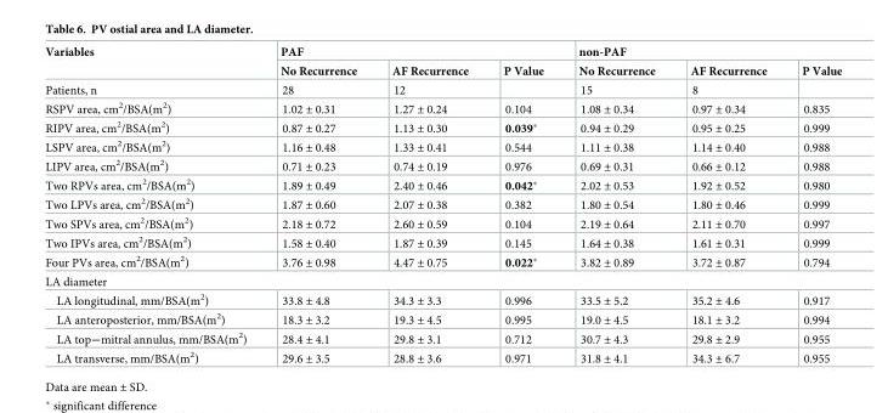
<table><thead><tr><td rowspan="2">Variables</td><td colspan="3">PAF</td><td colspan="3">non-PAF</td></tr><tr><td>No Recurrence</td><td>AF Recurrence</td><td>P Value</td><td>No Recurrence</td><td>AF Recurrence</td><td>P Value</td></tr></thead><tbody><tr><td>Patients, n</td><td>28</td><td>12</td><td></td><td>15</td><td>8</td><td></td></tr><tr><td>RSPV area, cm<sup>2</sup>/BSA(m<sup>2</sup>)</td><td>1.02 ± 0.31</td><td>1.27 ± 0.24</td><td>0.104</td><td>1.08 ± 0.34</td><td>0.97 ± 0.34</td><td>0.835</td></tr><tr><td>RIPV area, cm<sup>2</sup>/BSA(m<sup>2</sup>)</td><td>0.87 ± 0.27</td><td>1.13 ± 0.30</td><td>0.039*</td><td>0.94 ± 0.29</td><td>0.95 ± 0.25</td><td>0.999</td></tr><tr><td>LSPV area, cm<sup>2</sup>/BSA(m<sup>2</sup>)</td><td>1.16 ± 0.48</td><td>1.33 ± 0.41</td><td>0.544</td><td>1.11 ± 0.38</td><td>1.14 ± 0.40</td><td>0.988</td></tr><tr><td>LIPV area, cm<sup>2</sup>/BSA(m<sup>2</sup>)</td><td>0.71 ± 0.23</td><td>0.74 ± 0.19</td><td>0.976</td><td>0.69 ± 0.31</td><td>0.66 ± 0.12</td><td>0.988</td></tr><tr><td>Two RPVs area, cm<sup>2</sup>/BSA(m<sup>2</sup>)</td><td>1.89 ± 0.49</td><td>2.40 ± 0.46</td><td>0.042*</td><td>2.02 ± 0.53</td><td>1.92 ± 0.52</td><td>0.980</td></tr><tr><td>Two LPVs area, cm<sup>2</sup>/BSA(m<sup>2</sup>)</td><td>1.87 ± 0.60</td><td>2.07 ± 0.38</td><td>0.382</td><td>1.80 ± 0.54</td><td>1.80 ± 0.46</td><td>0.999</td></tr><tr><td>Two SPVs area, cm<sup>2</sup>/BSA(m<sup>2</sup>)</td><td>2.18 ± 0.72</td><td>2.60 ± 0.59</td><td>0.104</td><td>2.19 ± 0.64</td><td>2.11 ± 0.70</td><td>0.997</td></tr><tr><td>Two IPVs area, cm<sup>2</sup>/BSA(m<sup>2</sup>)</td><td>1.58 ± 0.40</td><td>1.87 ± 0.39</td><td>0.145</td><td>1.64 ± 0.38</td><td>1.61 ± 0.31</td><td>0.999</td></tr><tr><td>Four PVs area, cm<sup>2</sup>/BSA(m<sup>2</sup>)</td><td>3.76 ± 0.98</td><td>4.47 ± 0.75</td><td>0.022*</td><td>3.82 ± 0.89</td><td>3.72 ± 0.87</td><td>0.794</td></tr><tr><td colspan="7">LA diameter</td></tr><tr><td>LA longitudinal, mm/BSA(m<sup>2</sup>)</td><td>33.8 ± 4.8</td><td>34.3 ± 3.3</td><td>0.996</td><td>33.5 ± 5.2</td><td>35.2 ± 4.6</td><td>0.917</td></tr><tr><td>LA anteroposterior, mm/BSA(m<sup>2</sup>)</td><td>18.3 ± 3.2</td><td>19.3 ± 4.5</td><td>0.995</td><td>19.0 ± 4.5</td><td>18.1 ± 3.2</td><td>0.994</td></tr><tr><td>LA top―mitral annulus, mm/BSA(m<sup>2</sup>)</td><td>28.4 ± 4.1</td><td>29.8 ± 3.1</td><td>0.712</td><td>30.7 ± 4.3</td><td>29.8 ± 2.9</td><td>0.955</td></tr><tr><td>LA transverse, mm/BSA(m<sup>2</sup>)</td><td>29.6 ± 3.5</td><td>28.8 ± 3.6</td><td>0.971</td><td>31.8 ± 4.1</td><td>34.3 ± 6.7</td><td>0.955</td></tr></tbody></table>